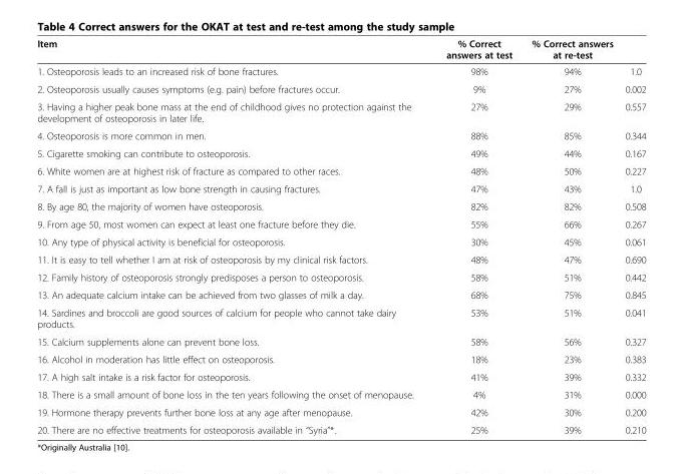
<table><thead><tr><td>Item</td><td>% Correct answers at test</td><td>% Correct answers at re-test</td><td></td></tr></thead><tbody><tr><td>1. Osteoporosis leads to an increased risk of bone fractures.</td><td>98%</td><td>94%</td><td>1.0</td></tr><tr><td>2. Osteoporosis usually causes symptoms (e.g. pain) before fractures occur.</td><td>9%</td><td>27%</td><td>0.002</td></tr><tr><td>3. Having a higher peak bone mass at the end of childhood gives no protection against the development of osteoporosis in later life.</td><td>27%</td><td>29%</td><td>0.557</td></tr><tr><td>4. Osteoporosis is more common in men.</td><td>88%</td><td>85%</td><td>0.344</td></tr><tr><td>5. Cigarette smoking can contribute to osteoporosis.</td><td>49%</td><td>44%</td><td>0.167</td></tr><tr><td>6. White women are at highest risk of fracture as compared to other races.</td><td>48%</td><td>50%</td><td>0.227</td></tr><tr><td>7. A fall is just as important as low bone strength in causing fractures.</td><td>47%</td><td>43%</td><td>1.0</td></tr><tr><td>8. By age 80, the majority of women have osteoporosis.</td><td>82%</td><td>82%</td><td>0.508</td></tr><tr><td>9. From age 50, most women can expect at least one fracture before they die.</td><td>55%</td><td>66%</td><td>0.267</td></tr><tr><td>10. Any type of physical activity is beneficial for osteoporosis.</td><td>30%</td><td>45%</td><td>0.061</td></tr><tr><td>11. It is easy to tell whether I am at risk of osteoporosis by my clinical risk factors.</td><td>48%</td><td>47%</td><td>0.690</td></tr><tr><td>12. Family history of osteoporosis strongly predisposes a person to osteoporosis.</td><td>58%</td><td>51%</td><td>0.442</td></tr><tr><td>13. An adequate calcium intake can be achieved from two glasses of milk a day.</td><td>68%</td><td>75%</td><td>0.845</td></tr><tr><td>14. Sardines and broccoli are good sources of calcium for people who cannot take dairy products.</td><td>53%</td><td>51%</td><td>0.041</td></tr><tr><td>15. Calcium supplements alone can prevent bone loss.</td><td>58%</td><td>56%</td><td>0.327</td></tr><tr><td>16. Alcohol in moderation has little effect on osteoporosis.</td><td>18%</td><td>23%</td><td>0.383</td></tr><tr><td>17. A high salt intake is a risk factor for osteoporosis.</td><td>41%</td><td>39%</td><td>0.332</td></tr><tr><td>18. There is a small amount of bone loss in the ten years following the onset of menopause.</td><td>4%</td><td>31%</td><td>0.000</td></tr><tr><td>19. Hormone therapy prevents further bone loss at any age after menopause.</td><td>42%</td><td>30%</td><td>0.200</td></tr><tr><td>20. There are no effective treatments for osteoporosis available in “Syria”*.</td><td>25%</td><td>39%</td><td>0.210</td></tr></tbody></table>